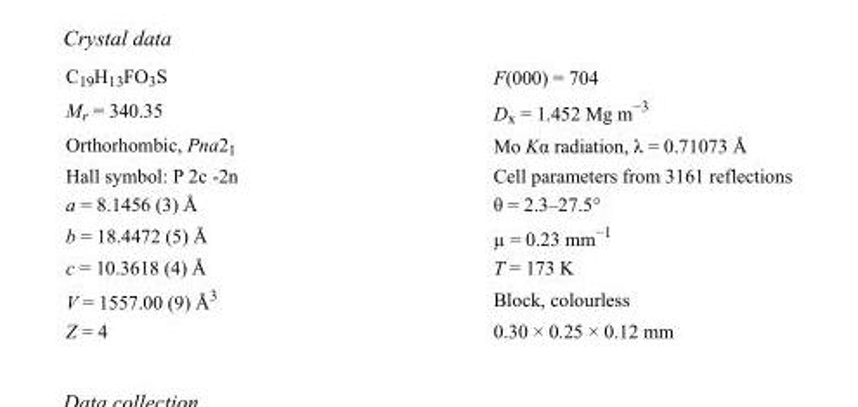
<table><tbody><tr><td>C<sub>19</sub>H<sub>13</sub>FO<sub>3</sub>S</td><td>F(000) = 704</td></tr><tr><td>M<sub>r</sub> = 340.35</td><td>D<sub>x</sub> = 1.452 Mg m<sup>−3</sup></td></tr><tr><td>Orthorhombic, Pna2<sub>1</sub></td><td>Mo Kα radiation, λ = 0.71073 Å</td></tr><tr><td>Hall symbol: P 2c -2n</td><td>Cell parameters from 3161 reflections</td></tr><tr><td>a = 8.1456 (3) Å</td><td>θ = 2.3–27.5°</td></tr><tr><td>b = 18.4472 (5) Å</td><td>µ = 0.23 mm<sup>−1</sup></td></tr><tr><td>c = 10.3618 (4) Å</td><td>T = 173 K</td></tr><tr><td>V = 1557.00 (9) Å<sup>3</sup></td><td>Block, colourless</td></tr><tr><td>Z = 4</td><td>0.30 × 0.25 × 0.12 mm</td></tr></tbody></table>